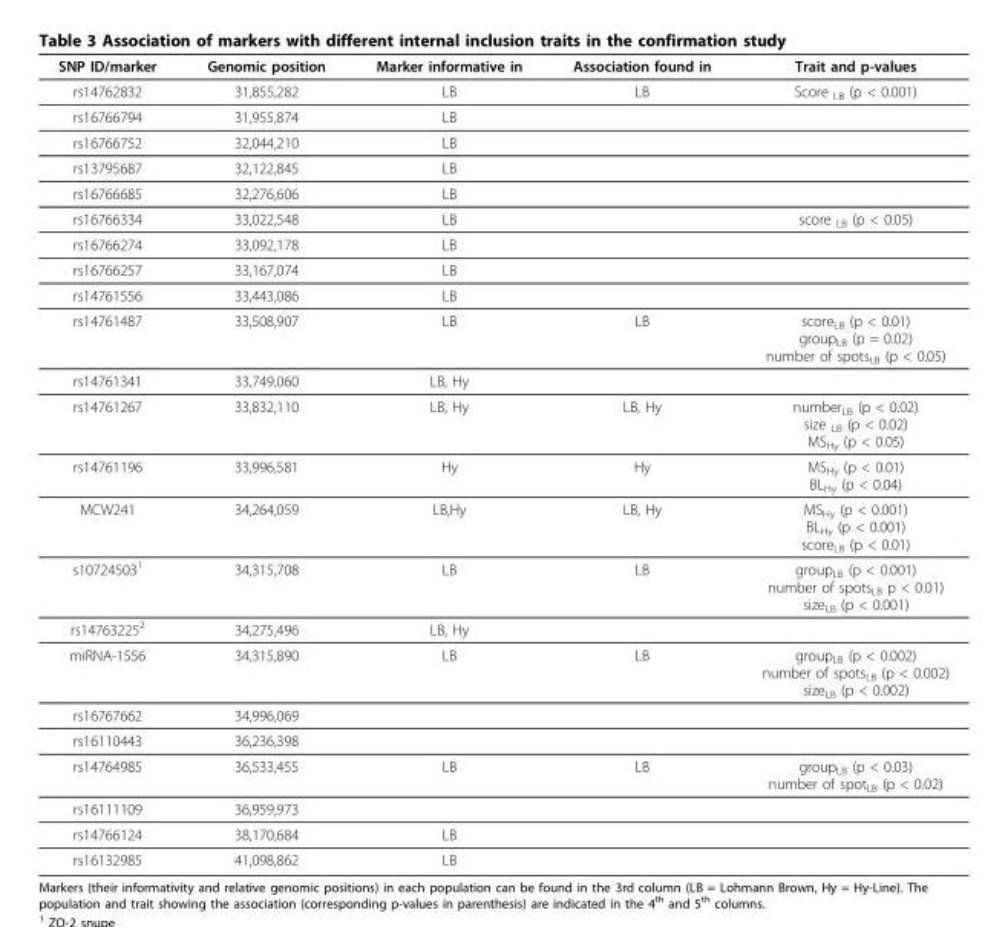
<table><thead><tr><td>SNP ID/marker</td><td>Genomic position</td><td>Marker informative in</td><td>Association found in</td><td>Trait and p-values</td></tr></thead><tbody><tr><td>rs14762832</td><td>31,855,282</td><td>LB</td><td>LB</td><td>Score <sub>LB</sub> (p &lt; 0.001)</td></tr><tr><td>rs16766794</td><td>31,955,874</td><td>LB</td><td></td><td></td></tr><tr><td>rs16766752</td><td>32,044,210</td><td>LB</td><td></td><td></td></tr><tr><td>rs13795687</td><td>32,122,845</td><td>LB</td><td></td><td></td></tr><tr><td>rs16766685</td><td>32,276,606</td><td>LB</td><td></td><td></td></tr><tr><td>rs16766334</td><td>33,022,548</td><td>LB</td><td></td><td>score <sub>LB</sub> (p &lt; 0.05)</td></tr><tr><td>rs16766274</td><td>33,092,178</td><td>LB</td><td></td><td></td></tr><tr><td>rs16766257</td><td>33,167,074</td><td>LB</td><td></td><td></td></tr><tr><td>rs14761556</td><td>33,443,086</td><td>LB</td><td></td><td></td></tr><tr><td>rs14761487</td><td>33,508,907</td><td>LB</td><td>LB</td><td>score<sub>LB</sub> (p &lt; 0.01) group<sub>LB</sub> (p = 0.02) number of spots<sub>LB</sub> (p &lt; 0.05)</td></tr><tr><td>rs14761341</td><td>33,749,060</td><td>LB, Hy</td><td></td><td></td></tr><tr><td>rs14761267</td><td>33,832,110</td><td>LB, Hy</td><td>LB, Hy</td><td>number<sub>LB</sub> (p &lt; 0.02) size <sub>LB</sub> (p &lt; 0.02) MS<sub>Hy</sub> (p &lt; 0.05)</td></tr><tr><td>rs14761196</td><td>33,996,581</td><td>Hy</td><td>Hy</td><td>MS<sub>Hy</sub> (p &lt; 0.01) BL<sub>Hy</sub> (p &lt; 0.04)</td></tr><tr><td>MCW241</td><td>34,264,059</td><td>LB,Hy</td><td>LB, Hy</td><td>MS<sub>Hy</sub> (p &lt; 0.001) BL<sub>Hy</sub> (p &lt; 0.001) score<sub>LB</sub> (p &lt; 0.01)</td></tr><tr><td>s10724503<sup>1</sup></td><td>34,315,708</td><td>LB</td><td>LB</td><td>group<sub>LB</sub> (p &lt; 0.001) number of spots<sub>LB</sub> p &lt; 0.01) size<sub>LB</sub> (p &lt; 0.001)</td></tr><tr><td>rs14763225<sup>2</sup></td><td>34,275,496</td><td>LB, Hy</td><td></td><td></td></tr><tr><td>miRNA-1556</td><td>34,315,890</td><td>LB</td><td>LB</td><td>group<sub>LB</sub> (p &lt; 0.002) number of spots<sub>LB</sub> (p &lt; 0.002) size<sub>LB</sub> (p &lt; 0.002)</td></tr><tr><td>rs16767662</td><td>34,996,069</td><td></td><td></td><td></td></tr><tr><td>rs16110443</td><td>36,236,398</td><td></td><td></td><td></td></tr><tr><td>rs14764985</td><td>36,533,455</td><td>LB</td><td>LB</td><td>group<sub>LB</sub> (p &lt; 0.03) number of spot<sub>LB</sub> (p &lt; 0.02)</td></tr><tr><td>rs16111109</td><td>36,959,973</td><td></td><td></td><td></td></tr><tr><td>rs14766124</td><td>38,170,684</td><td>LB</td><td></td><td></td></tr><tr><td>rs16132985</td><td>41,098,862</td><td>LB</td><td></td><td></td></tr></tbody></table>